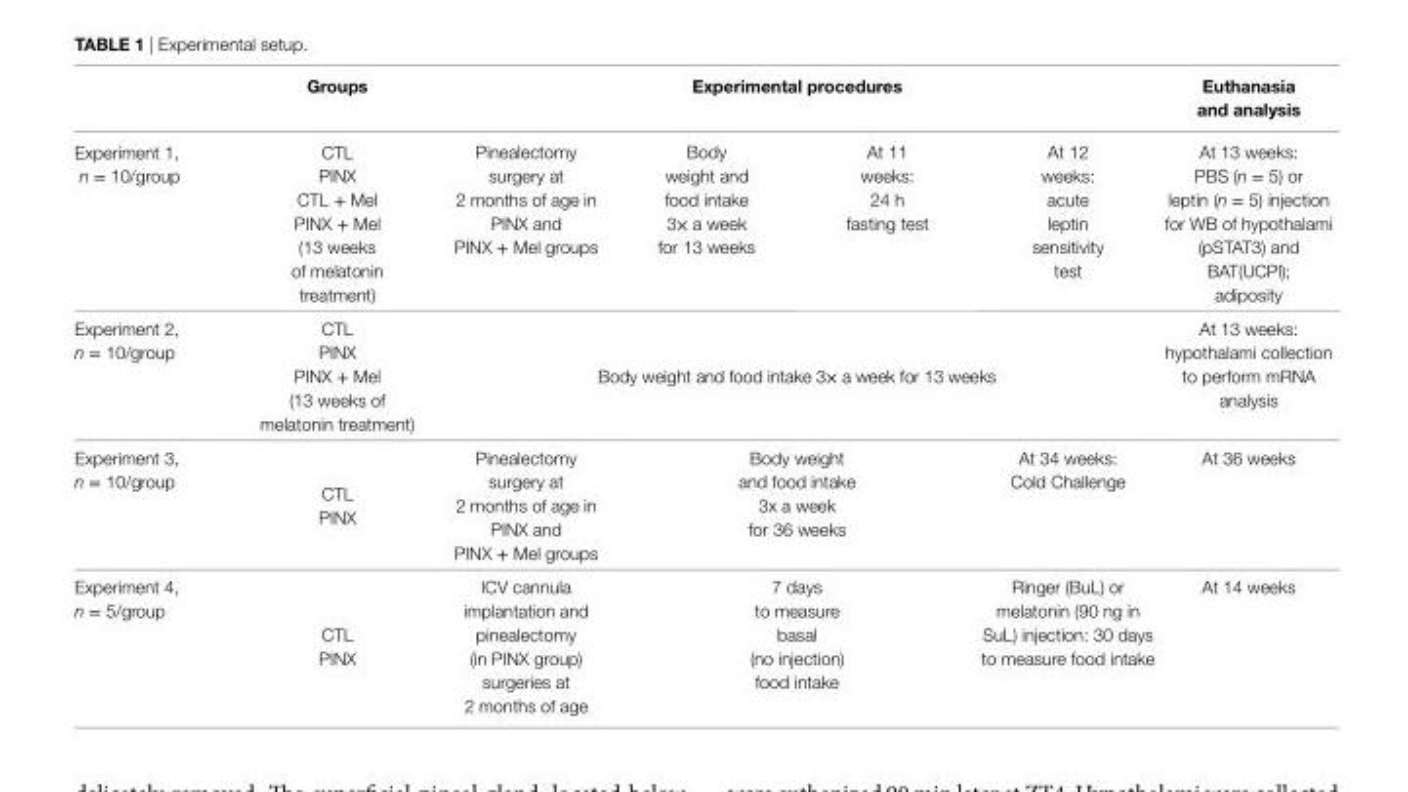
<table><thead><tr><td rowspan="2">Experiment 1, n = 10/group</td><td rowspan="2">groups CTL PINX CTL + Mel PINX + Mel (13 weeks of melatonin treatment)</td><td colspan="4">experimental procedures</td><td rowspan="2">euthanasia and analysis At 13 weeks: PBS (n = 5) or leptin (n = 5) injection for WB of hypothalami (pSTAT3) and BAT(UCPl); adiposity</td></tr><tr><td>Pinealectomy surgery at 2 months of age in PINX and PINX + Mel groups</td><td>Body weight and food intake 3× a week for 13 weeks</td><td>At 11 weeks: 24 h fasting test</td><td>At 12 weeks: acute leptin sensitivity test</td></tr></thead><tbody><tr><td>Experiment 2, n = 10/group</td><td>CTL PINX PINX + Mel (13 weeks of melatonin treatment)</td><td colspan="4">Body weight and food intake 3× a week for 13 weeks</td><td>At 13 weeks: hypothalami collection to perform mRNA analysis</td></tr><tr><td>Experiment 3, n = 10/group</td><td>CTL PINX</td><td>Pinealectomy surgery at 2 months of age in PINX and PINX + Mel groups</td><td colspan="2">Body weight and food intake 3x a week for 36 weeks</td><td>At 34 weeks: Cold Challenge</td><td>At 36 weeks</td></tr><tr><td>Experiment 4, n = 5/group</td><td>CTL PINX</td><td>ICV cannula implantation and pinealectomy (in PINX group) surgeries at 2 months of age</td><td colspan="2">7 days to measure basal (no injection) food intake</td><td>Ringer (BuL) or melatonin (90 ng in SuL) injection: 30 days to measure food intake</td><td>At 14 weeks</td></tr></tbody></table>